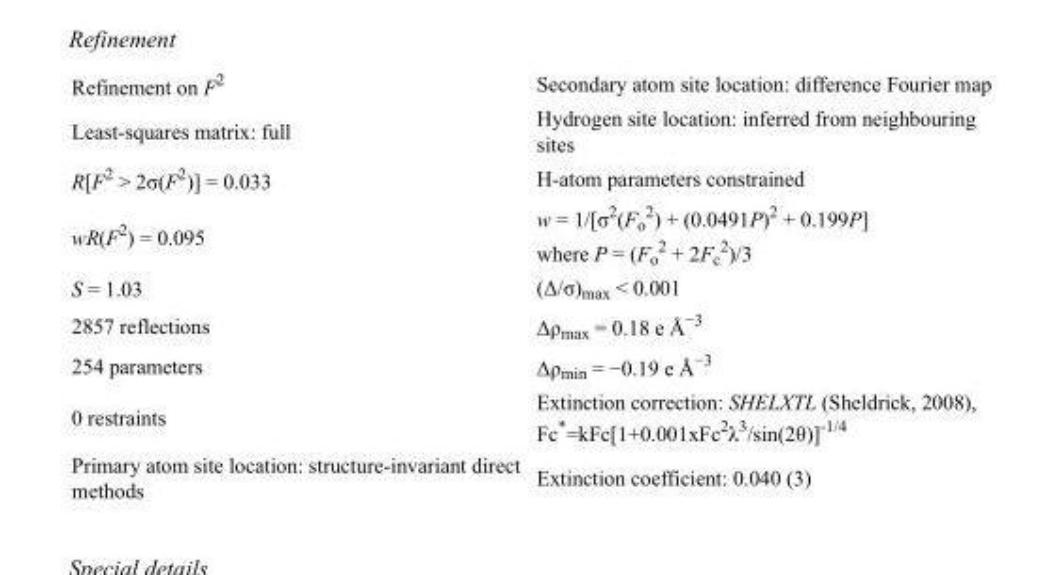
<table><tbody><tr><td>Refinement on F<sup>2</sup></td><td>Secondary atom site location: difference Fourier map</td></tr><tr><td>Least-squares matrix: full</td><td>Hydrogen site location: inferred from neighbouring sites</td></tr><tr><td>R[F<sup>2</sup> &gt; 2σ(F<sup>2</sup>)] = 0.033</td><td>H-atom parameters constrained</td></tr><tr><td>wR(F<sup>2</sup>) = 0.095</td><td>w = 1/[σ<sup>2</sup>(F<sub>o</sub> <sup>2</sup>) + (0.0491P)<sup>2</sup> + 0.199P] where P = (F<sub>o</sub> <sup>2</sup> + 2F<sub>c</sub> <sup>2</sup>)/3</td></tr><tr><td>S = 1.03</td><td>(Δ/σ)<sub>max</sub> &lt; 0.001</td></tr><tr><td>2857 reflections</td><td>Δρ<sub>max</sub> = 0.18 e Å<sup>−3</sup></td></tr><tr><td>254 parameters</td><td>Δρ<sub>min</sub> = −0.19 e Å<sup>−3</sup></td></tr><tr><td>0 restraints</td><td>Extinction correction: SHELXTL (Sheldrick, 2008), Fc*=kFc[1+0.001xFc<sup>2</sup>λ<sup>3</sup>/sin(2θ)]<sup>-1/4</sup></td></tr><tr><td>Primary atom site location: structure-invariant direct methods</td><td>Extinction coefficient: 0.040 (3)</td></tr></tbody></table>